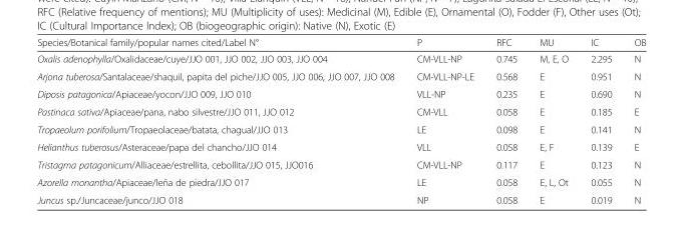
<table><thead><tr><td>Species/Botanical family/popular names cited/Label N°</td><td>P</td><td>RFC</td><td>MU</td><td>IC</td><td>OB</td></tr></thead><tbody><tr><td>Oxalis adenophylla/Oxalidaceae/cuye/JJO 001, JJO 002, JJO 003, JJO 004</td><td>CM-VLL-NP</td><td>0.745</td><td>M, E, O</td><td>2.295</td><td>N</td></tr><tr><td>Arjona tuberosa/Santalaceae/shaquil, papita del piche/JJO 005, JJO 006, JJO 007, JJO 008</td><td>CM-VLL-NP-LE</td><td>0.568</td><td>E</td><td>0.951</td><td>N</td></tr><tr><td>Diposis patagonica/Apiaceae/yocon/JJO 009, JJO 010</td><td>VLL-NP</td><td>0.235</td><td>E</td><td>0.690</td><td>N</td></tr><tr><td>Pastinaca sativa/Apiaceae/pana, nabo silvestre/JJO 011, JJO 012</td><td>CM-VLL</td><td>0.058</td><td>E</td><td>0.185</td><td>E</td></tr><tr><td>Tropaeolum porifolium/Tropaeolaceae/batata, chagual/JJO 013</td><td>LE</td><td>0.098</td><td>E</td><td>0.141</td><td>N</td></tr><tr><td>Helianthus tuberosus/Asteraceae/papa del chancho/JJO 014</td><td>VLL</td><td>0.058</td><td>E, F</td><td>0.139</td><td>E</td></tr><tr><td>Tristagma patagonicum/Alliaceae/estrellita, cebollita/JJO 015, JJO016</td><td>CM-VLL-NP</td><td>0.117</td><td>E</td><td>0.123</td><td>N</td></tr><tr><td>Azorella monantha/Apiaceae/leña de piedra/JJO 017</td><td>LE</td><td>0.058</td><td>E, L, Ot</td><td>0.055</td><td>N</td></tr><tr><td>Juncus sp./Juncaceae/junco/JJO 018</td><td>NP</td><td>0.058</td><td>E</td><td>0.019</td><td>N</td></tr></tbody></table>